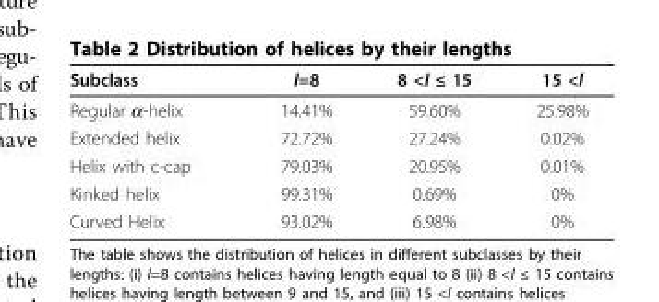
<table><thead><tr><td>Subclass</td><td>l=8</td><td>8 &lt;l ≤ 15</td><td>15 &lt;l</td></tr></thead><tbody><tr><td>Regular α-helix</td><td>14.41%</td><td>59.60%</td><td>25.98%</td></tr><tr><td>Extended helix</td><td>72.72%</td><td>27.24%</td><td>0.02%</td></tr><tr><td>Helix with c-cap</td><td>79.03%</td><td>20.95%</td><td>0.01%</td></tr><tr><td>Kinked helix</td><td>99.31%</td><td>0.69%</td><td>0%</td></tr><tr><td>Curved Helix</td><td>93.02%</td><td>6.98%</td><td>0%</td></tr></tbody></table>